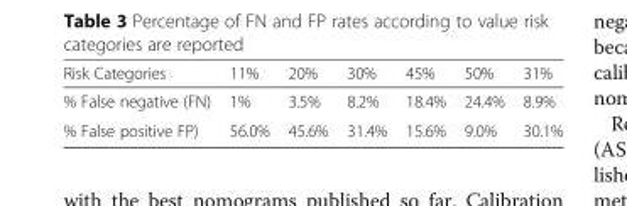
<table><thead><tr><td>Risk Categories</td><td>11%</td><td>20%</td><td>30%</td><td>45%</td><td>50%</td><td>31%</td></tr></thead><tbody><tr><td>% False negative (FN)</td><td>1%</td><td>3.5%</td><td>8.2%</td><td>18.4%</td><td>24.4%</td><td>8.9%</td></tr><tr><td>% False positive FP)</td><td>56.0%</td><td>45.6%</td><td>31.4%</td><td>15.6%</td><td>9.0%</td><td>30.1%</td></tr></tbody></table>